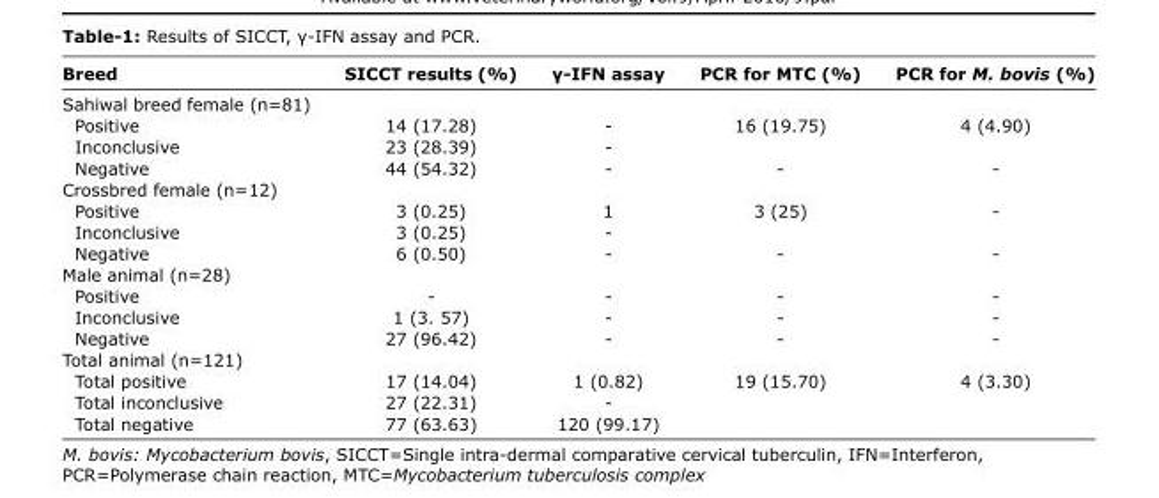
<table><thead><tr><td>Breed</td><td>SICCT results (%)</td><td>γ-IFN assay</td><td>PCR for MTC (%)</td><td>PCR for M. bovis (%)</td></tr></thead><tbody><tr><td colspan="5">Sahiwal breed female (n=81)</td></tr><tr><td>Positive</td><td>14 (17.28)</td><td>-</td><td>16 (19.75)</td><td>4 (4.90)</td></tr><tr><td>Inconclusive</td><td>23 (28.39)</td><td>-</td><td></td><td></td></tr><tr><td>Negative</td><td>44 (54.32)</td><td>-</td><td>-</td><td>-</td></tr><tr><td colspan="5">Crossbred female (n=12)</td></tr><tr><td>Positive</td><td>3 (0.25)</td><td>1</td><td>3 (25)</td><td>-</td></tr><tr><td>Inconclusive</td><td>3 (0.25)</td><td>-</td><td></td><td></td></tr><tr><td>Negative</td><td>6 (0.50)</td><td>-</td><td>-</td><td>-</td></tr><tr><td colspan="5">Male animal (n=28)</td></tr><tr><td>Positive</td><td>-</td><td>-</td><td>-</td><td>-</td></tr><tr><td>Inconclusive</td><td>1 (3. 57)</td><td>-</td><td>-</td><td>-</td></tr><tr><td>Negative</td><td>27 (96.42)</td><td>-</td><td>-</td><td>-</td></tr><tr><td colspan="5">Total animal (n=121)</td></tr><tr><td>Total positive</td><td>17 (14.04)</td><td>1 (0.82)</td><td>19 (15.70)</td><td>4 (3.30)</td></tr><tr><td>Total inconclusive</td><td>27 (22.31)</td><td>-</td><td></td><td></td></tr><tr><td>Total negative</td><td>77 (63.63)</td><td>120 (99.17)</td><td></td><td></td></tr></tbody></table>